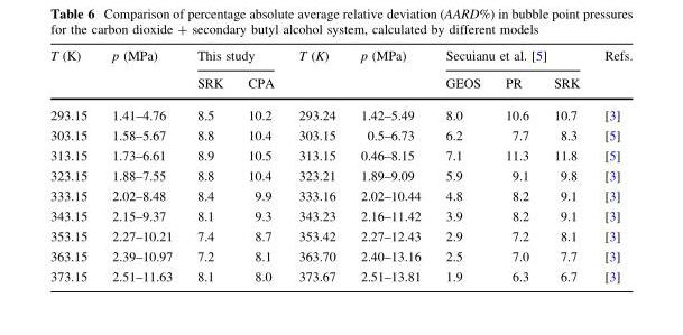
<table><thead><tr><td rowspan="2">T (K)</td><td rowspan="2">p (MPa)</td><td colspan="2">This study</td><td rowspan="2">T (K)</td><td rowspan="2">p (MPa)</td><td colspan="3">Secuianu et al. [5]</td><td rowspan="2">Refs.</td></tr><tr><td>SRK</td><td>CPA</td><td>GEOS</td><td>PR</td><td>SRK</td></tr></thead><tbody><tr><td>293.15</td><td>1.41–4.76</td><td>8.5</td><td>10.2</td><td>293.24</td><td>1.42–5.49</td><td>8.0</td><td>10.6</td><td>10.7</td><td>[3]</td></tr><tr><td>303.15</td><td>1.58–5.67</td><td>8.8</td><td>10.4</td><td>303.15</td><td>0.5–6.73</td><td>6.2</td><td>7.7</td><td>8.3</td><td>[5]</td></tr><tr><td>313.15</td><td>1.73–6.61</td><td>8.9</td><td>10.5</td><td>313.15</td><td>0.46–8.15</td><td>7.1</td><td>11.3</td><td>11.8</td><td>[5]</td></tr><tr><td>323.15</td><td>1.88–7.55</td><td>8.8</td><td>10.4</td><td>323.21</td><td>1.89–9.09</td><td>5.9</td><td>9.1</td><td>9.8</td><td>[3]</td></tr><tr><td>333.15</td><td>2.02–8.48</td><td>8.4</td><td>9.9</td><td>333.16</td><td>2.02–10.44</td><td>4.8</td><td>8.2</td><td>9.1</td><td>[3]</td></tr><tr><td>343.15</td><td>2.15–9.37</td><td>8.1</td><td>9.3</td><td>343.23</td><td>2.16–11.42</td><td>3.9</td><td>8.2</td><td>9.1</td><td>[3]</td></tr><tr><td>353.15</td><td>2.27–10.21</td><td>7.4</td><td>8.7</td><td>353.42</td><td>2.27–12.43</td><td>2.9</td><td>7.2</td><td>8.1</td><td>[3]</td></tr><tr><td>363.15</td><td>2.39–10.97</td><td>7.2</td><td>8.1</td><td>363.70</td><td>2.40–13.16</td><td>2.5</td><td>7.0</td><td>7.7</td><td>[3]</td></tr><tr><td>373.15</td><td>2.51–11.63</td><td>8.1</td><td>8.0</td><td>373.67</td><td>2.51–13.81</td><td>1.9</td><td>6.3</td><td>6.7</td><td>[3]</td></tr></tbody></table>